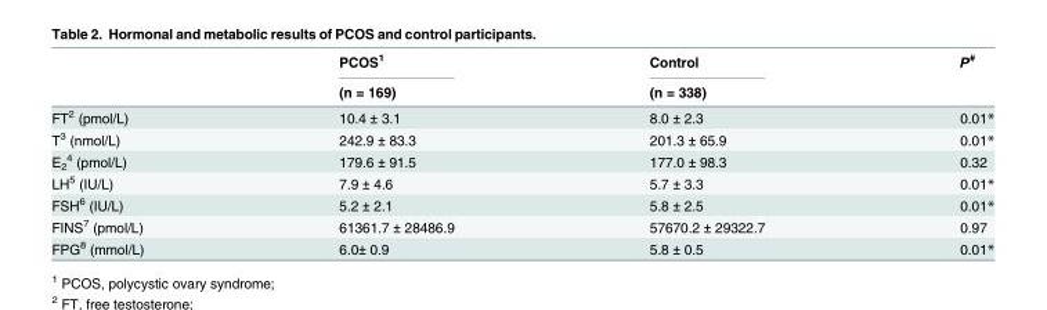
<table><thead><tr><td rowspan="2"></td><td rowspan="2">PCOS<sup>1</sup> (n = 169)</td><td rowspan="2">Control (n = 338)</td><td rowspan="2">P<sup>#</sup></td></tr><tr></tr></thead><tbody><tr><td>FT<sup>2</sup> (pmol/L)</td><td>10.4 ± 3.1</td><td>8.0 ± 2.3</td><td>0.01*</td></tr><tr><td>T<sup>3</sup> (nmol/L)</td><td>242.9 ± 83.3</td><td>201.3 ± 65.9</td><td>0.01*</td></tr><tr><td>E<sub>2</sub> <sup>4</sup> (pmol/L)</td><td>179.6 ± 91.5</td><td>177.0 ± 98.3</td><td>0.32</td></tr><tr><td>LH<sup>5</sup> (IU/L)</td><td>7.9 ± 4.6</td><td>5.7 ± 3.3</td><td>0.01*</td></tr><tr><td>FSH<sup>6</sup> (IU/L)</td><td>5.2 ± 2.1</td><td>5.8 ± 2.5</td><td>0.01*</td></tr><tr><td>FINS<sup>7</sup> (pmol/L)</td><td>61361.7 ± 28486.9</td><td>57670.2 ± 29322.7</td><td>0.97</td></tr><tr><td>FPG<sup>8</sup> (mmol/L)</td><td>6.0± 0.9</td><td>5.8 ± 0.5</td><td>0.01*</td></tr></tbody></table>